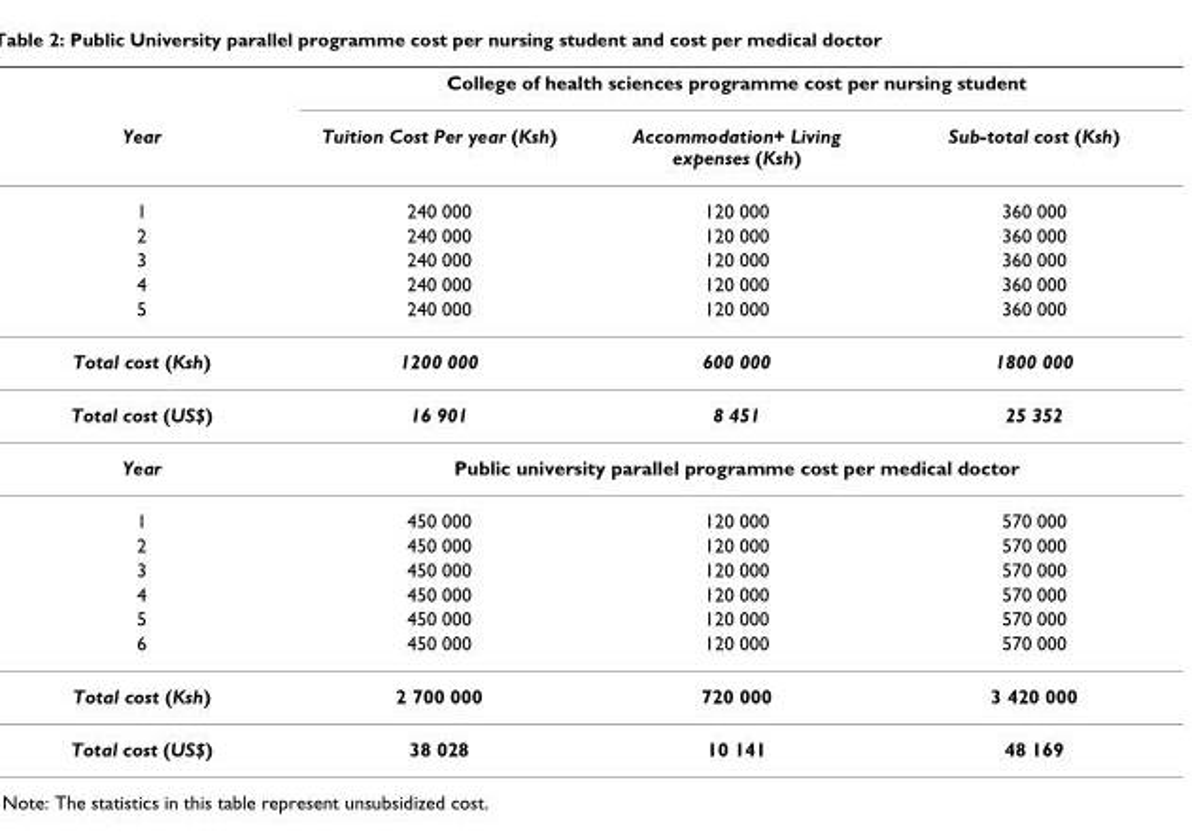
<table><thead><tr><td rowspan="2">Year</td><td colspan="3">College of health sciences programme cost per nursing student</td></tr><tr><td>Tuition Cost Per year (Ksh)</td><td>Accommodation+ Living expenses (Ksh)</td><td>Sub-total cost (Ksh)</td></tr></thead><tbody><tr><td>1</td><td>240 000</td><td>120 000</td><td>360 000</td></tr><tr><td>2</td><td>240 000</td><td>120 000</td><td>360 000</td></tr><tr><td>3</td><td>240 000</td><td>120 000</td><td>360 000</td></tr><tr><td>4</td><td>240 000</td><td>120 000</td><td>360 000</td></tr><tr><td>5</td><td>240 000</td><td>120 000</td><td>360 000</td></tr><tr><td>Total cost (Ksh)</td><td>1200 000</td><td>600 000</td><td>1800 000</td></tr><tr><td>Total cost (US$)</td><td>16 901</td><td>8 451</td><td>25 352</td></tr><tr><td>Year</td><td colspan="3">Public university parallel programme cost per medical doctor</td></tr><tr><td>1</td><td>450 000</td><td>120 000</td><td>570 000</td></tr><tr><td>2</td><td>450 000</td><td>120 000</td><td>570 000</td></tr><tr><td>3</td><td>450 000</td><td>120 000</td><td>570 000</td></tr><tr><td>4</td><td>450 000</td><td>120 000</td><td>570 000</td></tr><tr><td>5</td><td>450 000</td><td>120 000</td><td>570 000</td></tr><tr><td>6</td><td>450 000</td><td>120 000</td><td>570 000</td></tr><tr><td>Total cost (Ksh)</td><td>2 700 000</td><td>720 000</td><td>3 420 000</td></tr><tr><td>Total cost (US$)</td><td>38 028</td><td>10 141</td><td>48 169</td></tr></tbody></table>